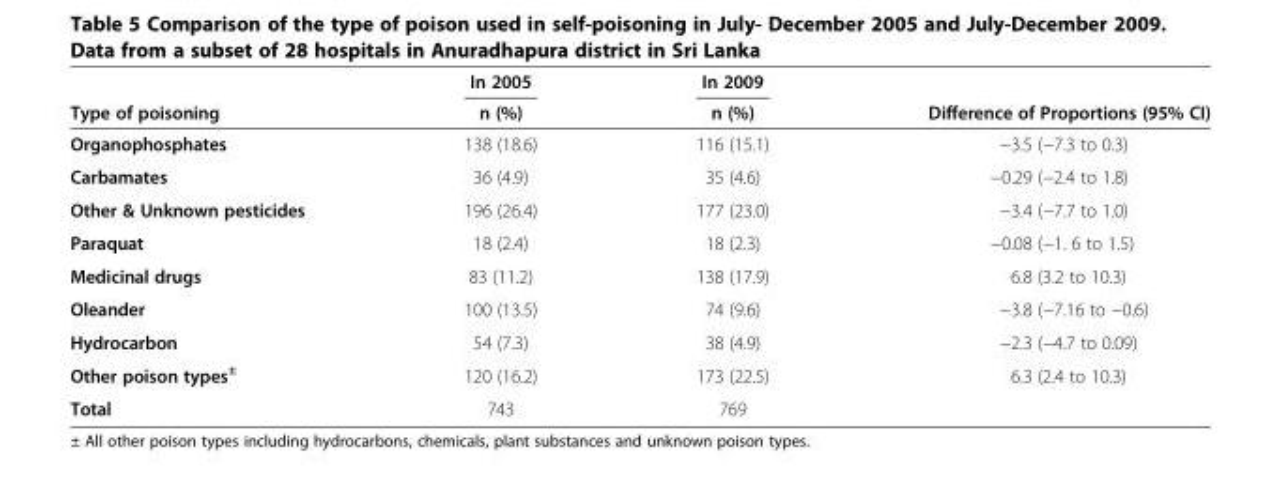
<table><thead><tr><td rowspan="2">Type of poisoning</td><td rowspan="2">In 2005 n (%)</td><td rowspan="2">In 2009 n (%)</td><td rowspan="2">Difference of Proportions (95% CI)</td></tr><tr></tr></thead><tbody><tr><td>Organophosphates</td><td>138 (18.6)</td><td>116 (15.1)</td><td>−3.5 (−7.3 to 0.3)</td></tr><tr><td>Carbamates</td><td>36 (4.9)</td><td>35 (4.6)</td><td>−0.29 (−2.4 to 1.8)</td></tr><tr><td>Other &amp; Unknown pesticides</td><td>196 (26.4)</td><td>177 (23.0)</td><td>−3.4 (−7.7 to 1.0)</td></tr><tr><td>Paraquat</td><td>18 (2.4)</td><td>18 (2.3)</td><td>−0.08 (−1. 6 to 1.5)</td></tr><tr><td>Medicinal drugs</td><td>83 (11.2)</td><td>138 (17.9)</td><td>6.8 (3.2 to 10.3)</td></tr><tr><td>Oleander</td><td>100 (13.5)</td><td>74 (9.6)</td><td>−3.8 (−7.16 to −0.6)</td></tr><tr><td>Hydrocarbon</td><td>54 (7.3)</td><td>38 (4.9)</td><td>−2.3 (−4.7 to 0.09)</td></tr><tr><td>Other poison types<sup>±</sup></td><td>120 (16.2)</td><td>173 (22.5)</td><td>6.3 (2.4 to 10.3)</td></tr><tr><td>Total</td><td>743</td><td>769</td><td></td></tr></tbody></table>